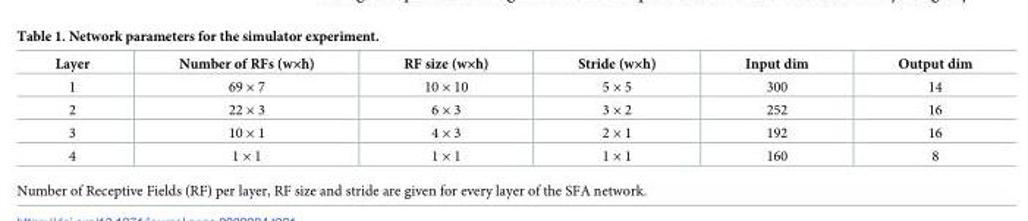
<table><thead><tr><td>Layer</td><td>Number of RFs (w×h)</td><td>RF size (w×h)</td><td>Stride (w×h)</td><td>Input dim</td><td>Output dim</td></tr></thead><tbody><tr><td>1</td><td>69 × 7</td><td>10 × 10</td><td>5 × 5</td><td>300</td><td>14</td></tr><tr><td>2</td><td>22 × 3</td><td>6 × 3</td><td>3 × 2</td><td>252</td><td>16</td></tr><tr><td>3</td><td>10 × 1</td><td>4 × 3</td><td>2 × 1</td><td>192</td><td>16</td></tr><tr><td>4</td><td>1 × 1</td><td>1 × 1</td><td>1 × 1</td><td>160</td><td>8</td></tr></tbody></table>